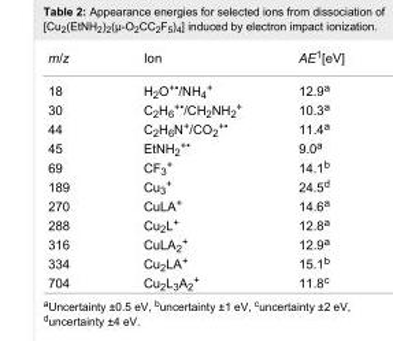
<table><tbody><tr><td>m/z</td><td>Ion</td><td>AE<sup>1</sup>[eV]</td></tr><tr><td>18</td><td>H<sub>2</sub>O<sup>+•</sup>/NH<sub>4</sub><sup>+</sup></td><td>12.9<sup>a</sup></td></tr><tr><td>30</td><td>C<sub>2</sub>H<sub>6</sub><sup>+•</sup>/CH<sub>2</sub>NH<sub>2</sub><sup>+</sup></td><td>10.3<sup>a</sup></td></tr><tr><td>44</td><td>C<sub>2</sub>H<sub>6</sub>N<sup>+</sup>/CO<sub>2</sub><sup>+•</sup></td><td>11.4<sup>a</sup></td></tr><tr><td>45</td><td>EtNH<sub>2</sub><sup>+•</sup></td><td>9.0<sup>a</sup></td></tr><tr><td>69</td><td>CF<sub>3</sub><sup>+</sup></td><td>14.1<sup>b</sup></td></tr><tr><td>189</td><td>Cu<sub>3</sub><sup>+</sup></td><td>24.5<sup>d</sup></td></tr><tr><td>270</td><td>CuLA<sup>+</sup></td><td>14.6<sup>a</sup></td></tr><tr><td>288</td><td>Cu<sub>2</sub>L<sup>+</sup></td><td>12.8<sup>a</sup></td></tr><tr><td>316</td><td>CuLA<sub>2</sub><sup>+</sup></td><td>12.9<sup>a</sup></td></tr><tr><td>334</td><td>Cu<sub>2</sub>LA<sup>+</sup></td><td>15.1<sup>b</sup></td></tr><tr><td>704</td><td>Cu<sub>2</sub>L<sub>3</sub>A<sub>2</sub><sup>+</sup></td><td>11.8<sup>c</sup></td></tr></tbody></table>